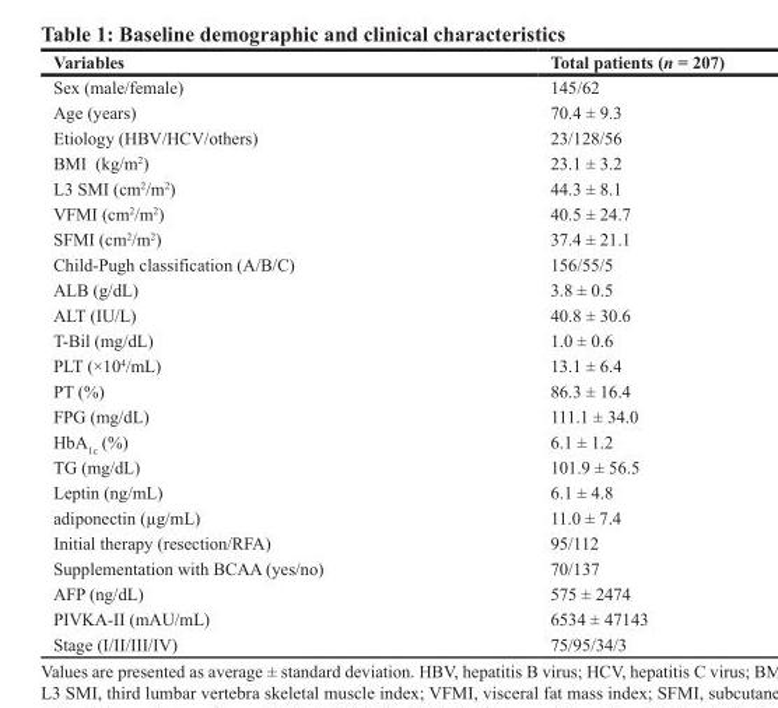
<table><thead><tr><td>Variables</td><td>Total patients (n = 207)</td></tr></thead><tbody><tr><td>Sex (male/female)</td><td>145/62</td></tr><tr><td>Age (years)</td><td>70.4 ± 9.3</td></tr><tr><td>Etiology (HBV/HCV/others)</td><td>23/128/56</td></tr><tr><td>BMI (kg/m<sup>2</sup>)</td><td>23.1 ± 3.2</td></tr><tr><td>L3 SMI (cm<sup>2</sup>/m<sup>2</sup>)</td><td>44.3 ± 8.1</td></tr><tr><td>VFMI (cm<sup>2</sup>/m<sup>2</sup>)</td><td>40.5 ± 24.7</td></tr><tr><td>SFMI (cm<sup>2</sup>/m<sup>2</sup>)</td><td>37.4 ± 21.1</td></tr><tr><td>Child-Pugh classification (A/B/C)</td><td>156/55/5</td></tr><tr><td>ALB (g/dL)</td><td>3.8 ± 0.5</td></tr><tr><td>ALT (IU/L)</td><td>40.8 ± 30.6</td></tr><tr><td>T-Bil (mg/dL)</td><td>1.0 ± 0.6</td></tr><tr><td>PLT (×10<sup>4</sup>/mL)</td><td>13.1 ± 6.4</td></tr><tr><td>PT (%)</td><td>86.3 ± 16.4</td></tr><tr><td>FPG (mg/dL)</td><td>111.1 ± 34.0</td></tr><tr><td>HbA<sub>1c</sub> (%)</td><td>6.1 ± 1.2</td></tr><tr><td>TG (mg/dL)</td><td>101.9 ± 56.5</td></tr><tr><td>Leptin (ng/mL)</td><td>6.1 ± 4.8</td></tr><tr><td>adiponectin (µg/mL)</td><td>11.0 ± 7.4</td></tr><tr><td>Initial therapy (resection/RFA)</td><td>95/112</td></tr><tr><td>Supplementation with BCAA (yes/no)</td><td>70/137</td></tr><tr><td>AFP (ng/dL)</td><td>575 ± 2474</td></tr><tr><td>PIVKA-II (mAU/mL)</td><td>6534 ± 47143</td></tr><tr><td>Stage (I/II/III/IV)</td><td>75/95/34/3</td></tr></tbody></table>